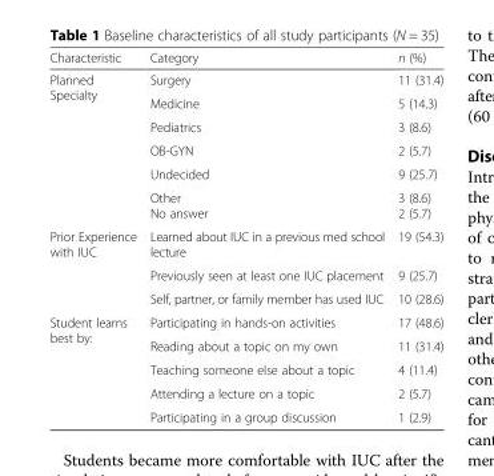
<table><thead><tr><td>Characteristic</td><td>Category</td><td>n (%)</td></tr></thead><tbody><tr><td rowspan="6">Planned Specialty</td><td>Surgery</td><td>11 (31.4)</td></tr><tr><td>Medicine</td><td>5 (14.3)</td></tr><tr><td>Pediatrics</td><td>3 (8.6)</td></tr><tr><td>OB-GYN</td><td>2 (5.7)</td></tr><tr><td>Undecided</td><td>9 (25.7)</td></tr><tr><td>Other No answer</td><td>3 (8.6) 2 (5.7)</td></tr><tr><td rowspan="3">Prior Experience with IUC</td><td>Learned about IUC in a previous med school lecture</td><td>19 (54.3)</td></tr><tr><td>Previously seen at least one IUC placement</td><td>9 (25.7)</td></tr><tr><td>Self, partner, or family member has used IUC</td><td>10 (28.6)</td></tr><tr><td rowspan="5">Student learns best by:</td><td>Participating in hands-on activities</td><td>17 (48.6)</td></tr><tr><td>Reading about a topic on my own</td><td>11 (31.4)</td></tr><tr><td>Teaching someone else about a topic</td><td>4 (11.4)</td></tr><tr><td>Attending a lecture on a topic</td><td>2 (5.7)</td></tr><tr><td>Participating in a group discussion</td><td>1 (2.9)</td></tr></tbody></table>